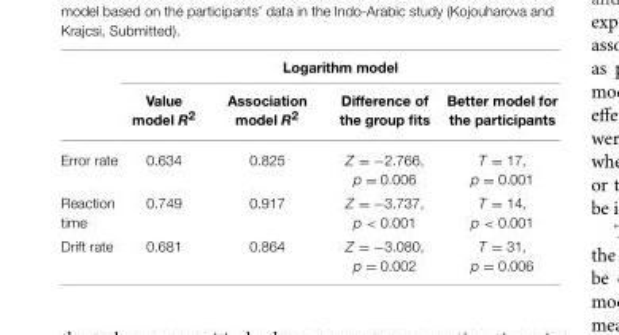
<table><thead><tr><td rowspan="2"></td><td colspan="4">Logarithm model</td></tr><tr><td>Value model R<sup>2</sup></td><td>Association model R<sup>2</sup></td><td>Difference of the group fits</td><td>Better model for the participants</td></tr></thead><tbody><tr><td>Error rate</td><td>0.634</td><td>0.825</td><td>Z = −2.766, p = 0.006</td><td>T = 17, p = 0.001</td></tr><tr><td>Reaction time</td><td>0.749</td><td>0.917</td><td>Z = −3.737, p &lt; 0.001</td><td>T = 14, p &lt; 0.001</td></tr><tr><td>Drift rate</td><td>0.681</td><td>0.864</td><td>Z = −3.080, p = 0.002</td><td>T = 31, p = 0.006</td></tr></tbody></table>